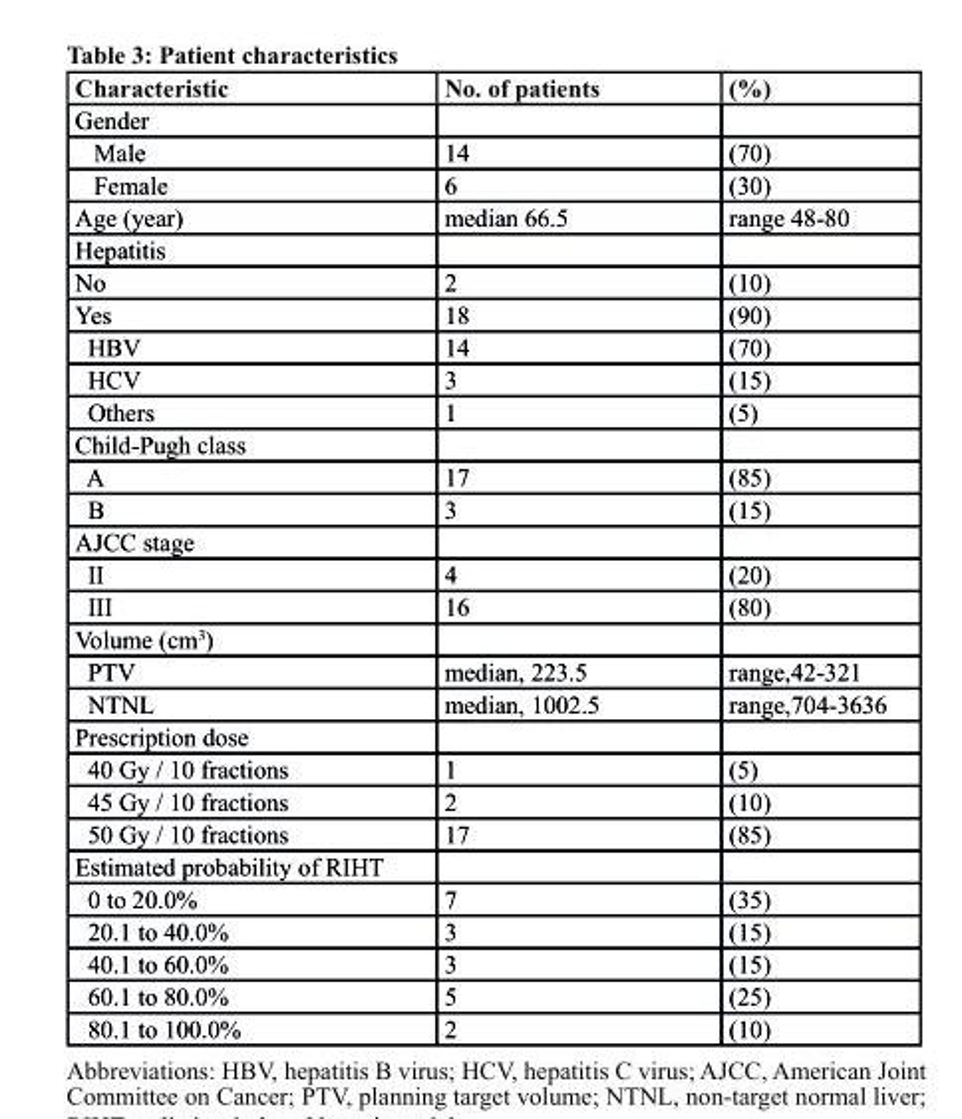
<table><thead><tr><td>characteristic</td><td>No. of patients</td><td>(%)</td></tr></thead><tbody><tr><td colspan="3">Gender</td></tr><tr><td>Male</td><td>14</td><td>(70)</td></tr><tr><td>Female</td><td>6</td><td>(30)</td></tr><tr><td>Age (year)</td><td>median 66.5</td><td>range 48-80</td></tr><tr><td colspan="3">Hepatitis</td></tr><tr><td>No</td><td>2</td><td>(10)</td></tr><tr><td>Yes</td><td>18</td><td>(90)</td></tr><tr><td>HBV</td><td>14</td><td>(70)</td></tr><tr><td>HCV</td><td>3</td><td>(15)</td></tr><tr><td>Others</td><td>1</td><td>(5)</td></tr><tr><td colspan="3">Child-Pugh class</td></tr><tr><td>A</td><td>17</td><td>(85)</td></tr><tr><td>B</td><td>3</td><td>(15)</td></tr><tr><td colspan="3">AJCC stage</td></tr><tr><td>II</td><td>4</td><td>(20)</td></tr><tr><td>III</td><td>16</td><td>(80)</td></tr><tr><td colspan="3">Volume (cm<sup>3</sup>)</td></tr><tr><td>PTV</td><td>median, 223.5</td><td>range,42-321</td></tr><tr><td>NTNL</td><td>median, 1002.5</td><td>range,704-3636</td></tr><tr><td colspan="3">Prescription dose</td></tr><tr><td>40 Gy / 10 fractions</td><td>1</td><td>(5)</td></tr><tr><td>45 Gy / 10 fractions</td><td>2</td><td>(10)</td></tr><tr><td>50 Gy / 10 fractions</td><td>17</td><td>(85)</td></tr><tr><td colspan="3">Estimated probability of RIHT</td></tr><tr><td>0 to 20.0%</td><td>7</td><td>(35)</td></tr><tr><td>20.1 to 40.0%</td><td>3</td><td>(15)</td></tr><tr><td>40.1 to 60.0%</td><td>3</td><td>(15)</td></tr><tr><td>60.1 to 80.0%</td><td>5</td><td>(25)</td></tr><tr><td>80.1 to 100.0%</td><td>2</td><td>(10)</td></tr></tbody></table>